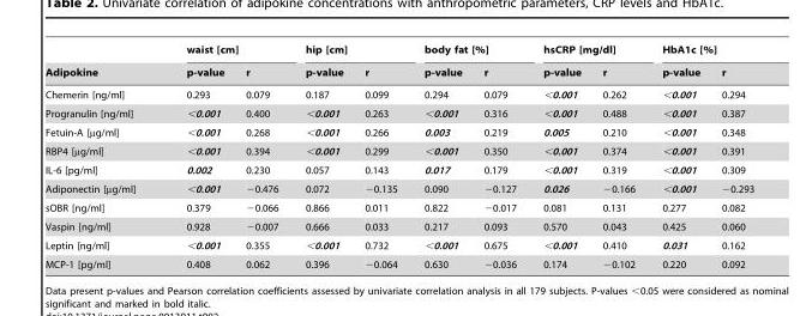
<table><thead><tr><td rowspan="2">Adipokine</td><td colspan="2">waist [cm]</td><td colspan="2">hip [cm]</td><td colspan="2">body fat [%]</td><td colspan="2">hsCRP [mg/dl]</td><td colspan="2">HbA1c [%]</td></tr><tr><td>p-value</td><td>r</td><td>p-value</td><td>r</td><td>p-value</td><td>r</td><td>p-value</td><td>r</td><td>p-value</td><td>r</td></tr></thead><tbody><tr><td>Chemerin [ng/ml]</td><td>0.293</td><td>0.079</td><td>0.187</td><td>0.099</td><td>0.294</td><td>0.079</td><td>&lt;0.001</td><td>0.262</td><td>&lt;0.001</td><td>0.294</td></tr><tr><td>Progranulin [ng/ml]</td><td>&lt;0.001</td><td>0.400</td><td>&lt;0.001</td><td>0.263</td><td>&lt;0.001</td><td>0.316</td><td>&lt;0.001</td><td>0.488</td><td>&lt;0.001</td><td>0.387</td></tr><tr><td>Fetuin-A [µg/ml]</td><td>&lt;0.001</td><td>0.268</td><td>&lt;0.001</td><td>0.266</td><td>0.003</td><td>0.219</td><td>0.005</td><td>0.210</td><td>&lt;0.001</td><td>0.348</td></tr><tr><td>RBP4 [µg/ml]</td><td>&lt;0.001</td><td>0.394</td><td>&lt;0.001</td><td>0.299</td><td>&lt;0.001</td><td>0.350</td><td>&lt;0.001</td><td>0.374</td><td>&lt;0.001</td><td>0.391</td></tr><tr><td>IL-6 [pg/ml]</td><td>0.002</td><td>0.230</td><td>0.057</td><td>0.143</td><td>0.017</td><td>0.179</td><td>&lt;0.001</td><td>0.319</td><td>&lt;0.001</td><td>0.309</td></tr><tr><td>Adiponectin [µg/ml]</td><td>&lt;0.001</td><td>−0.476</td><td>0.072</td><td>−0.135</td><td>0.090</td><td>−0.127</td><td>0.026</td><td>−0.166</td><td>&lt;0.001</td><td>−0.293</td></tr><tr><td>sOBR [ng/ml]</td><td>0.379</td><td>−0.066</td><td>0.866</td><td>0.011</td><td>0.822</td><td>−0.017</td><td>0.081</td><td>0.131</td><td>0.277</td><td>0.082</td></tr><tr><td>Vaspin [ng/ml]</td><td>0.928</td><td>−0.007</td><td>0.666</td><td>0.033</td><td>0.217</td><td>0.093</td><td>0.570</td><td>0.043</td><td>0.425</td><td>0.060</td></tr><tr><td>Leptin [ng/ml]</td><td>&lt;0.001</td><td>0.355</td><td>&lt;0.001</td><td>0.732</td><td>&lt;0.001</td><td>0.675</td><td>&lt;0.001</td><td>0.410</td><td>0.031</td><td>0.162</td></tr><tr><td>MCP-1 [pg/ml]</td><td>0.408</td><td>0.062</td><td>0.396</td><td>−0.064</td><td>0.630</td><td>−0.036</td><td>0.174</td><td>−0.102</td><td>0.220</td><td>0.092</td></tr></tbody></table>